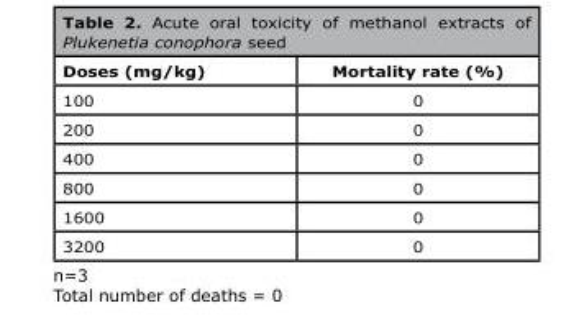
<table><thead><tr><td>Doses (mg/kg)</td><td>Mortality rate (%)</td></tr></thead><tbody><tr><td>100</td><td>0</td></tr><tr><td>200</td><td>0</td></tr><tr><td>400</td><td>0</td></tr><tr><td>800</td><td>0</td></tr><tr><td>1600</td><td>0</td></tr><tr><td>3200</td><td>0</td></tr></tbody></table>